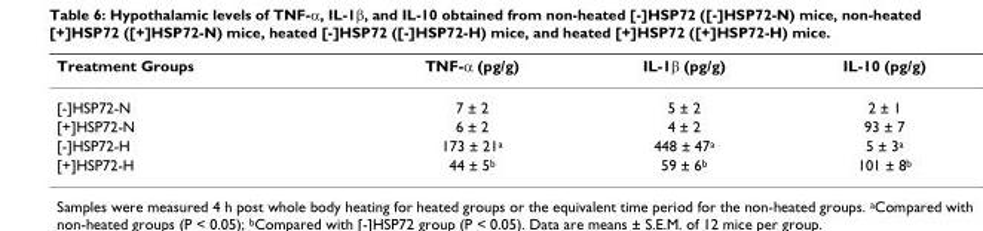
<table><thead><tr><td>Treatment Groups</td><td>TNF-α (pg/g)</td><td>IL-1β (pg/g)</td><td>IL-10 (pg/g)</td></tr></thead><tbody><tr><td>[-]HSP72-N</td><td>7 ± 2</td><td>5 ± 2</td><td>2 ± 1</td></tr><tr><td>[+]HSP72-N</td><td>6 ± 2</td><td>4 ± 2</td><td>93 ± 7</td></tr><tr><td>[-]HSP72-H</td><td>173 ± 21<sup>a</sup></td><td>448 ± 47<sup>a</sup></td><td>5 ± 3<sup>a</sup></td></tr><tr><td>[+]HSP72-H</td><td>44 ± 5<sup>b</sup></td><td>59 ± 6<sup>b</sup></td><td>101 ± 8<sup>b</sup></td></tr></tbody></table>